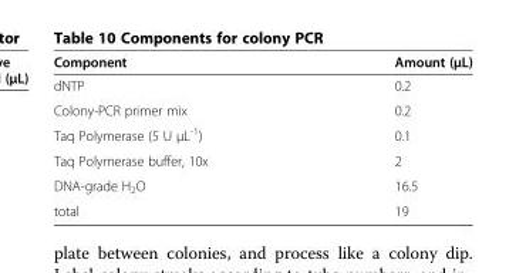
<table><thead><tr><td>Component</td><td>Amount (μL)</td></tr></thead><tbody><tr><td>dNTP</td><td>0.2</td></tr><tr><td>Colony-PCR primer mix</td><td>0.2</td></tr><tr><td>Taq Polymerase (5 U μL<sup>-1</sup>)</td><td>0.1</td></tr><tr><td>Taq Polymerase buffer, 10x</td><td>2</td></tr><tr><td>DNA-grade H<sub>2</sub>O</td><td>16.5</td></tr><tr><td>total</td><td>19</td></tr></tbody></table>